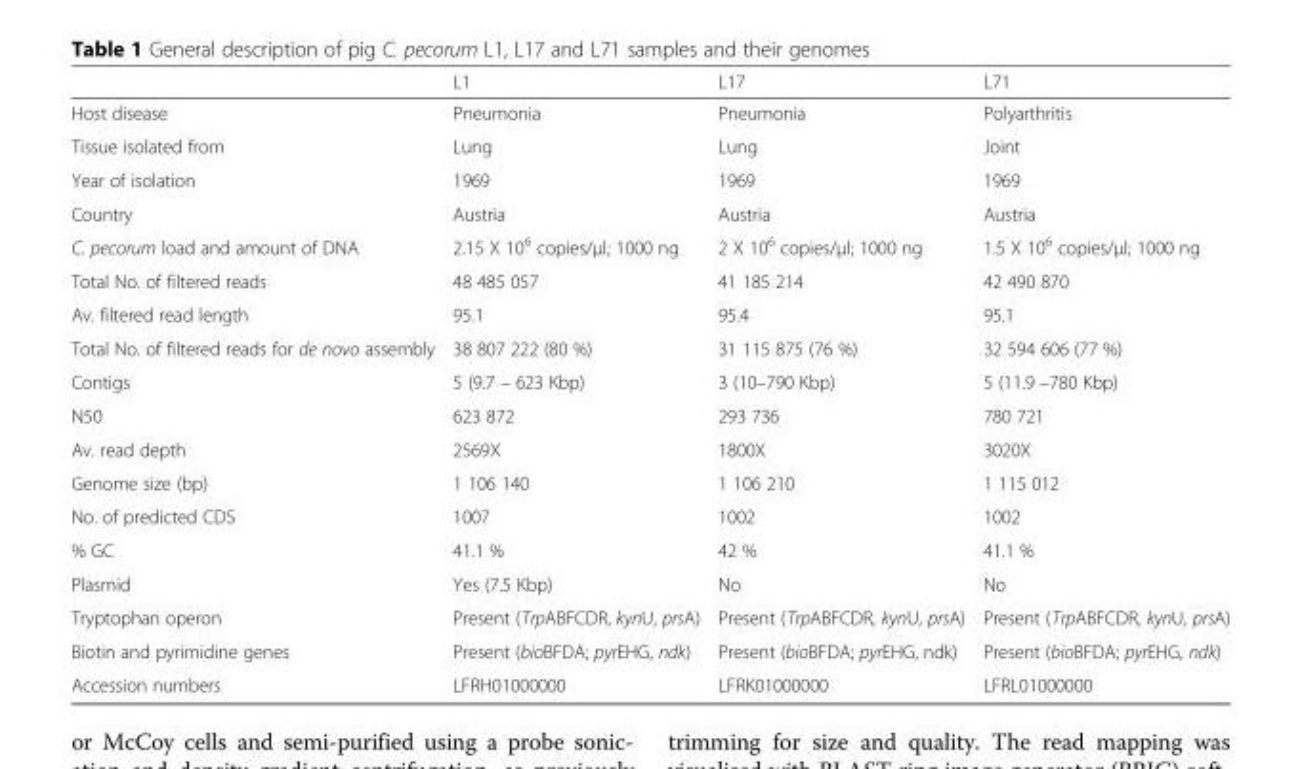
<table><thead><tr><td></td><td>L1</td><td>L17</td><td>L71</td></tr></thead><tbody><tr><td>Host disease</td><td>Pneumonia</td><td>Pneumonia</td><td>Polyarthritis</td></tr><tr><td>Tissue isolated from</td><td>Lung</td><td>Lung</td><td>Joint</td></tr><tr><td>Year of isolation</td><td>1969</td><td>1969</td><td>1969</td></tr><tr><td>Country</td><td>Austria</td><td>Austria</td><td>Austria</td></tr><tr><td>C. pecorum load and amount of DNA</td><td>2.15 X 10<sup>6</sup> copies/μl; 1000 ng</td><td>2 X 10<sup>6</sup> copies/μl; 1000 ng</td><td>1.5 X 10<sup>6</sup> copies/μl; 1000 ng</td></tr><tr><td>Total No. of filtered reads</td><td>48 485 057</td><td>41 185 214</td><td>42 490 870</td></tr><tr><td>Av. filtered read length</td><td>95.1</td><td>95.4</td><td>95.1</td></tr><tr><td>Total No. of filtered reads for de novo assembly</td><td>38 807 222 (80 %)</td><td>31 115 875 (76 %)</td><td>32 594 606 (77 %)</td></tr><tr><td>Contigs</td><td>5 (9.7 – 623 Kbp)</td><td>3 (10–790 Kbp)</td><td>5 (11.9 –780 Kbp)</td></tr><tr><td>N50</td><td>623 872</td><td>293 736</td><td>780 721</td></tr><tr><td>Av. read depth</td><td>2569X</td><td>1800X</td><td>3020X</td></tr><tr><td>Genome size (bp)</td><td>1 106 140</td><td>1 106 210</td><td>1 115 012</td></tr><tr><td>No. of predicted CDS</td><td>1007</td><td>1002</td><td>1002</td></tr><tr><td>% GC</td><td>41.1 %</td><td>42 %</td><td>41.1 %</td></tr><tr><td>Plasmid</td><td>Yes (7.5 Kbp)</td><td>No</td><td>No</td></tr><tr><td>Tryptophan operon</td><td>Present (TrpABFCDR, kynU, prsA)</td><td>Present (TrpABFCDR, kynU, prsA)</td><td>Present (TrpABFCDR, kynU, prsA)</td></tr><tr><td>Biotin and pyrimidine genes</td><td>Present (bioBFDA; pyrEHG, ndk)</td><td>Present (bioBFDA; pyrEHG, ndk)</td><td>Present (bioBFDA; pyrEHG, ndk)</td></tr><tr><td>Accession numbers</td><td>LFRH01000000</td><td>LFRK01000000</td><td>LFRL01000000</td></tr></tbody></table>